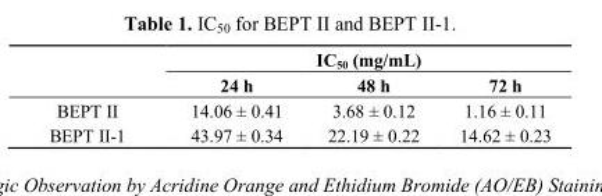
<table><thead><tr><td rowspan="2"></td><td colspan="3">IC<sub>50</sub> (mg/mL)</td></tr><tr><td>24 h</td><td>48 h</td><td>72 h</td></tr></thead><tbody><tr><td>BEPT II</td><td>14.06 ± 0.41</td><td>3.68 ± 0.12</td><td>1.16 ± 0.11</td></tr><tr><td>BEPT II-1</td><td>43.97 ± 0.34</td><td>22.19 ± 0.22</td><td>14.62 ± 0.23</td></tr></tbody></table>